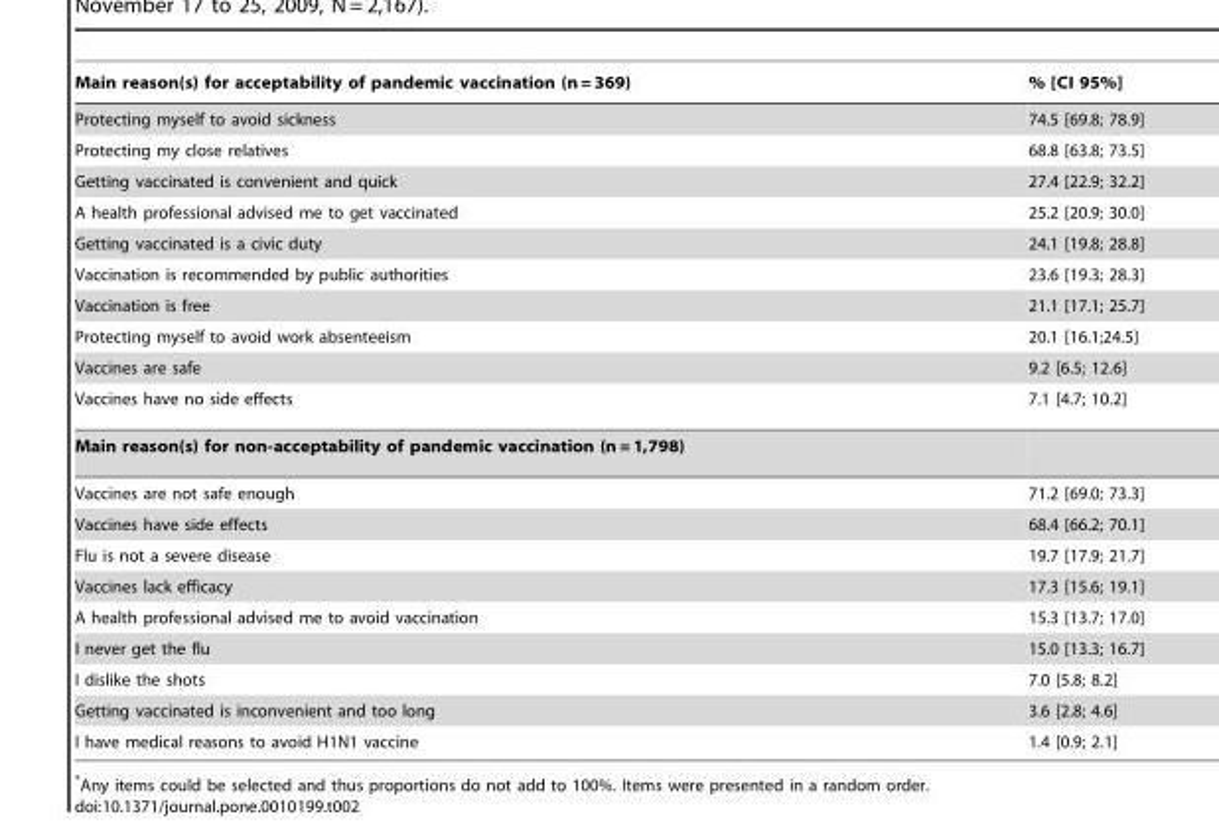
<table><thead><tr><td>Main reason(s) for acceptability of pandemic vaccination (n = 369)</td><td>% [CI 95%]</td></tr></thead><tbody><tr><td>Protecting myself to avoid sickness</td><td>74.5 [69.8; 78.9]</td></tr><tr><td>Protecting my close relatives</td><td>68.8 [63.8; 73.5]</td></tr><tr><td>Getting vaccinated is convenient and quick</td><td>27.4 [22.9; 32.2]</td></tr><tr><td>A health professional advised me to get vaccinated</td><td>25.2 [20.9; 30.0]</td></tr><tr><td>Getting vaccinated is a civic duty</td><td>24.1 [19.8; 28.8]</td></tr><tr><td>Vaccination is recommended by public authorities</td><td>23.6 [19.3; 28.3]</td></tr><tr><td>Vaccination is free</td><td>21.1 [17.1; 25.7]</td></tr><tr><td>Protecting myself to avoid work absenteeism</td><td>20.1 [16.1;24.5]</td></tr><tr><td>Vaccines are safe</td><td>9.2 [6.5; 12.6]</td></tr><tr><td>Vaccines have no side effects</td><td>7.1 [4.7; 10.2]</td></tr><tr><td colspan="2">Main reason(s) for non-acceptability of pandemic vaccination (n = 1,798)</td></tr><tr><td>Vaccines are not safe enough</td><td>71.2 [69.0; 73.3]</td></tr><tr><td>Vaccines have side effects</td><td>68.4 [66.2; 70.1]</td></tr><tr><td>Flu is not a severe disease</td><td>19.7 [17.9; 21.7]</td></tr><tr><td>Vaccines lack efficacy</td><td>17.3 [15.6; 19.1]</td></tr><tr><td>A health professional advised me to avoid vaccination</td><td>15.3 [13.7; 17.0]</td></tr><tr><td>I never get the flu</td><td>15.0 [13.3; 16.7]</td></tr><tr><td>I dislike the shots</td><td>7.0 [5.8; 8.2]</td></tr><tr><td>Getting vaccinated is inconvenient and too long</td><td>3.6 [2.8; 4.6]</td></tr><tr><td>I have medical reasons to avoid H1N1 vaccine</td><td>1.4 [0.9; 2.1]</td></tr></tbody></table>